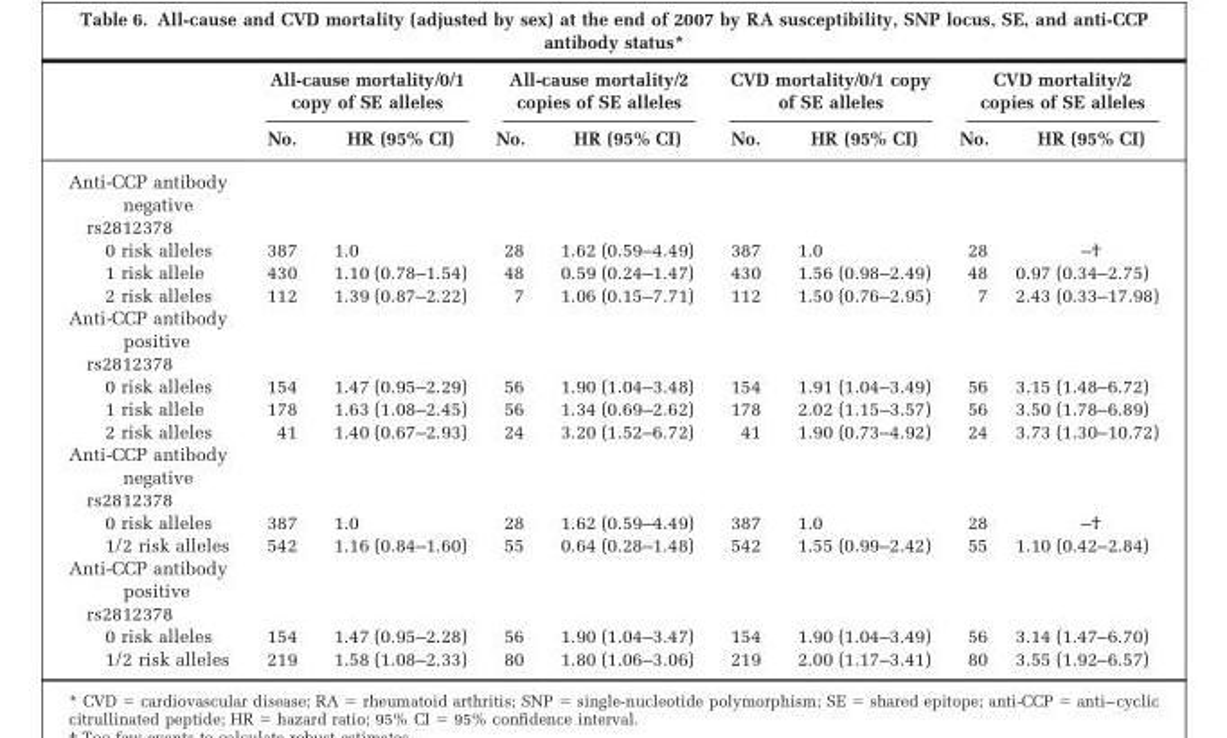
<table><thead><tr><td rowspan="2"></td><td colspan="2">All-cause mortality/0/1 copy of SE alleles</td><td colspan="2">All-cause mortality/2 copies of SE alleles</td><td colspan="2">CVD mortality/0/1 copy of SE alleles</td><td colspan="2">CVD mortality/2 copies of SE alleles</td></tr><tr><td>No.</td><td>HR (95% CI)</td><td>No.</td><td>HR (95% CI)</td><td>No.</td><td>HR (95% CI)</td><td>No.</td><td>HR (95% CI)</td></tr></thead><tbody><tr><td colspan="9">Anti-CCP antibody negative</td></tr><tr><td colspan="9">rs2812378</td></tr><tr><td>0 risk alleles</td><td>387</td><td>1.0</td><td>28</td><td>1.62 (0.59–4.49)</td><td>387</td><td>1.0</td><td>28</td><td>–†</td></tr><tr><td>1 risk allele</td><td>430</td><td>1.10 (0.78–1.54)</td><td>48</td><td>0.59 (0.24–1.47)</td><td>430</td><td>1.56 (0.98–2.49)</td><td>48</td><td>0.97 (0.34–2.75)</td></tr><tr><td>2 risk alleles</td><td>112</td><td>1.39 (0.87–2.22)</td><td>7</td><td>1.06 (0.15–7.71)</td><td>112</td><td>1.50 (0.76–2.95)</td><td>7</td><td>2.43 (0.33–17.98)</td></tr><tr><td colspan="9">Anti-CCP antibody positive</td></tr><tr><td colspan="9">rs2812378</td></tr><tr><td>0 risk alleles</td><td>154</td><td>1.47 (0.95–2.29)</td><td>56</td><td>1.90 (1.04–3.48)</td><td>154</td><td>1.91 (1.04–3.49)</td><td>56</td><td>3.15 (1.48–6.72)</td></tr><tr><td>1 risk allele</td><td>178</td><td>1.63 (1.08–2.45)</td><td>56</td><td>1.34 (0.69–2.62)</td><td>178</td><td>2.02 (1.15–3.57)</td><td>56</td><td>3.50 (1.78–6.89)</td></tr><tr><td>2 risk alleles</td><td>41</td><td>1.40 (0.67–2.93)</td><td>24</td><td>3.20 (1.52–6.72)</td><td>41</td><td>1.90 (0.73–4.92)</td><td>24</td><td>3.73 (1.30–10.72)</td></tr><tr><td colspan="9">Anti-CCP antibody negative</td></tr><tr><td colspan="9">rs2812378</td></tr><tr><td>0 risk alleles</td><td>387</td><td>1.0</td><td>28</td><td>1.62 (0.59–4.49)</td><td>387</td><td>1.0</td><td>28</td><td>–†</td></tr><tr><td>1/2 risk alleles</td><td>542</td><td>1.16 (0.84–1.60)</td><td>55</td><td>0.64 (0.28–1.48)</td><td>542</td><td>1.55 (0.99–2.42)</td><td>55</td><td>1.10 (0.42–2.84)</td></tr><tr><td colspan="9">Anti-CCP antibody positive</td></tr><tr><td colspan="9">rs2812378</td></tr><tr><td>0 risk alleles</td><td>154</td><td>1.47 (0.95–2.28)</td><td>56</td><td>1.90 (1.04–3.47)</td><td>154</td><td>1.90 (1.04–3.49)</td><td>56</td><td>3.14 (1.47–6.70)</td></tr><tr><td>1/2 risk alleles</td><td>219</td><td>1.58 (1.08–2.33)</td><td>80</td><td>1.80 (1.06–3.06)</td><td>219</td><td>2.00 (1.17–3.41)</td><td>80</td><td>3.55 (1.92–6.57)</td></tr></tbody></table>